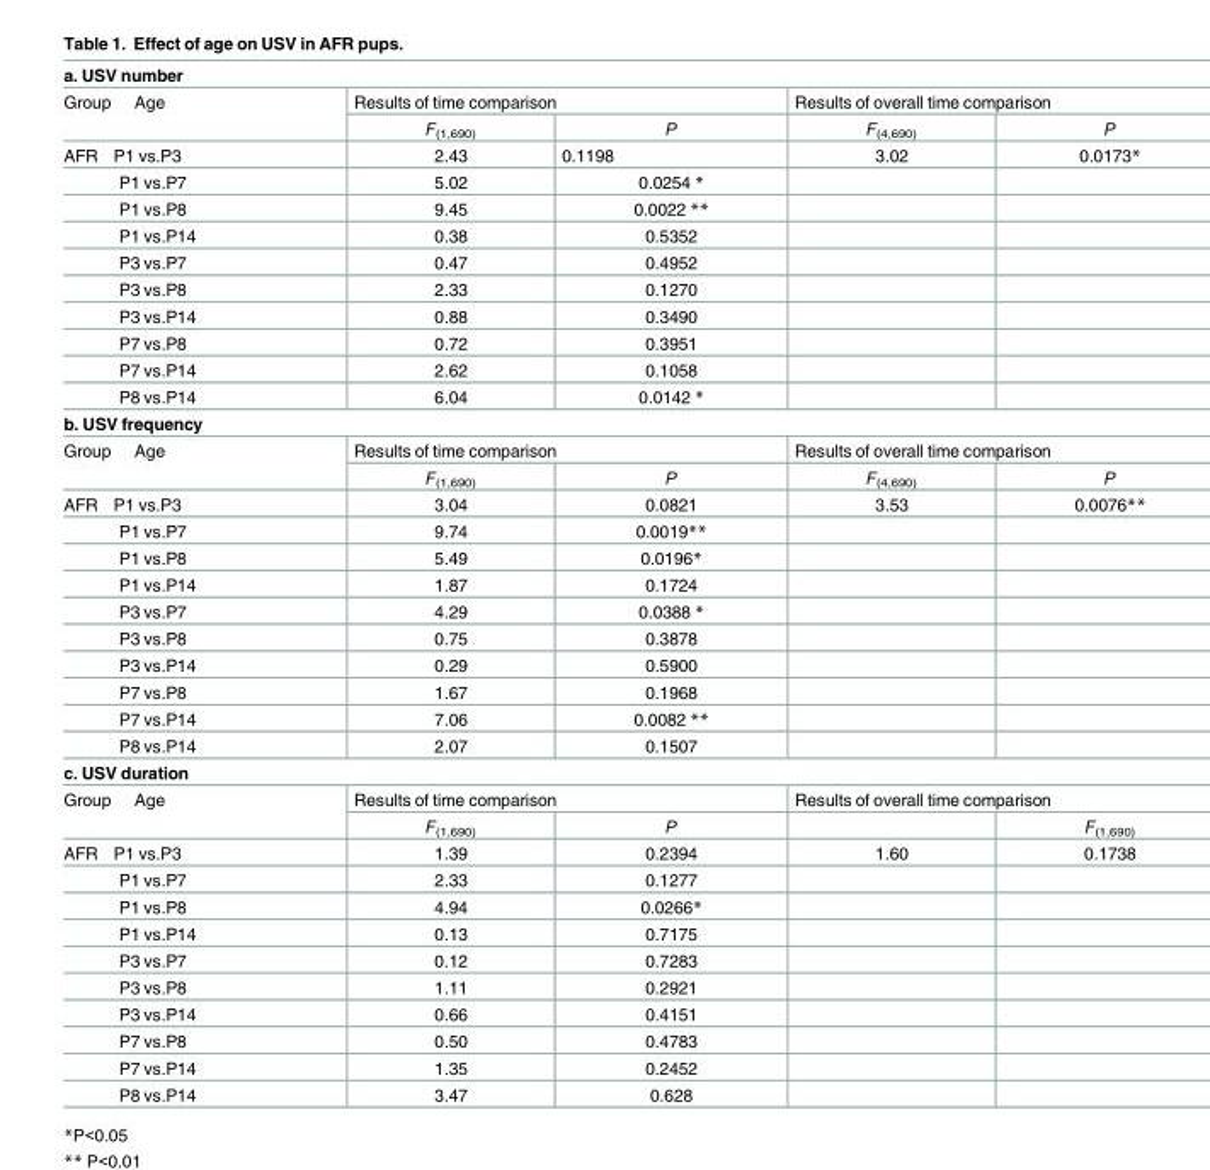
<table><tbody><tr><td colspan="5">a. USV number</td></tr><tr><td rowspan="2">Group Age</td><td colspan="2">Results of time comparison</td><td colspan="2">Results of overall time comparison</td></tr><tr><td>F<sub>(1,690)</sub></td><td>P</td><td>F<sub>(4,690)</sub></td><td>P</td></tr><tr><td>AFR P1 vs.P3</td><td>2.43</td><td>0.1198</td><td>3.02</td><td>0.0173*</td></tr><tr><td>P1 vs.P7</td><td>5.02</td><td>0.0254 *</td><td></td><td></td></tr><tr><td>P1 vs.P8</td><td>9.45</td><td>0.0022 **</td><td></td><td></td></tr><tr><td>P1 vs.P14</td><td>0.38</td><td>0.5352</td><td></td><td></td></tr><tr><td>P3 vs.P7</td><td>0.47</td><td>0.4952</td><td></td><td></td></tr><tr><td>P3 vs.P8</td><td>2.33</td><td>0.1270</td><td></td><td></td></tr><tr><td>P3 vs.P14</td><td>0.88</td><td>0.3490</td><td></td><td></td></tr><tr><td>P7 vs.P8</td><td>0.72</td><td>0.3951</td><td></td><td></td></tr><tr><td>P7 vs.P14</td><td>2.62</td><td>0.1058</td><td></td><td></td></tr><tr><td>P8 vs.P14</td><td>6.04</td><td>0.0142 *</td><td></td><td></td></tr><tr><td colspan="5">b. USV frequency</td></tr><tr><td rowspan="2">Group Age</td><td colspan="2">Results of time comparison</td><td colspan="2">Results of overall time comparison</td></tr><tr><td>F<sub>(1,690)</sub></td><td>P</td><td>F<sub>(4,690)</sub></td><td>P</td></tr><tr><td>AFR P1 vs.P3</td><td>3.04</td><td>0.0821</td><td>3.53</td><td>0.0076**</td></tr><tr><td>P1 vs.P7</td><td>9.74</td><td>0.0019**</td><td></td><td></td></tr><tr><td>P1 vs.P8</td><td>5.49</td><td>0.0196*</td><td></td><td></td></tr><tr><td>P1 vs.P14</td><td>1.87</td><td>0.1724</td><td></td><td></td></tr><tr><td>P3 vs.P7</td><td>4.29</td><td>0.0388 *</td><td></td><td></td></tr><tr><td>P3 vs.P8</td><td>0.75</td><td>0.3878</td><td></td><td></td></tr><tr><td>P3 vs.P14</td><td>0.29</td><td>0.5900</td><td></td><td></td></tr><tr><td>P7 vs.P8</td><td>1.67</td><td>0.1968</td><td></td><td></td></tr><tr><td>P7 vs.P14</td><td>7.06</td><td>0.0082 **</td><td></td><td></td></tr><tr><td>P8 vs.P14</td><td>2.07</td><td>0.1507</td><td></td><td></td></tr><tr><td colspan="5">c. USV duration</td></tr><tr><td rowspan="2">Group Age</td><td colspan="2">Results of time comparison</td><td colspan="2">Results of overall time comparison</td></tr><tr><td>F<sub>(1,690)</sub></td><td>P</td><td></td><td>F<sub>(1,690)</sub></td></tr><tr><td>AFR P1 vs.P3</td><td>1.39</td><td>0.2394</td><td>1.60</td><td>0.1738</td></tr><tr><td>P1 vs.P7</td><td>2.33</td><td>0.1277</td><td></td><td></td></tr><tr><td>P1 vs.P8</td><td>4.94</td><td>0.0266*</td><td></td><td></td></tr><tr><td>P1 vs.P14</td><td>0.13</td><td>0.7175</td><td></td><td></td></tr><tr><td>P3 vs.P7</td><td>0.12</td><td>0.7283</td><td></td><td></td></tr><tr><td>P3 vs.P8</td><td>1.11</td><td>0.2921</td><td></td><td></td></tr><tr><td>P3 vs.P14</td><td>0.66</td><td>0.4151</td><td></td><td></td></tr><tr><td>P7 vs.P8</td><td>0.50</td><td>0.4783</td><td></td><td></td></tr><tr><td>P7 vs.P14</td><td>1.35</td><td>0.2452</td><td></td><td></td></tr><tr><td>P8 vs.P14</td><td>3.47</td><td>0.628</td><td></td><td></td></tr></tbody></table>